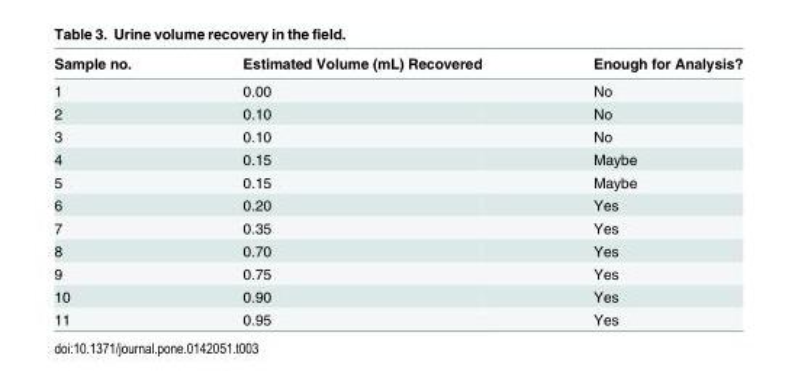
<table><thead><tr><td>Sample no.</td><td>Estimated Volume (mL) Recovered</td><td>Enough for Analysis?</td></tr></thead><tbody><tr><td>1</td><td>0.00</td><td>No</td></tr><tr><td>2</td><td>0.10</td><td>No</td></tr><tr><td>3</td><td>0.10</td><td>No</td></tr><tr><td>4</td><td>0.15</td><td>Maybe</td></tr><tr><td>5</td><td>0.15</td><td>Maybe</td></tr><tr><td>6</td><td>0.20</td><td>Yes</td></tr><tr><td>7</td><td>0.35</td><td>Yes</td></tr><tr><td>8</td><td>0.70</td><td>Yes</td></tr><tr><td>9</td><td>0.75</td><td>Yes</td></tr><tr><td>10</td><td>0.90</td><td>Yes</td></tr><tr><td>11</td><td>0.95</td><td>Yes</td></tr></tbody></table>